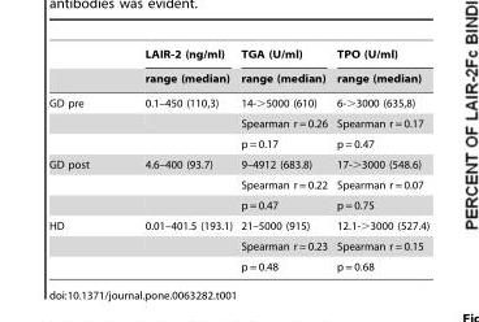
<table><thead><tr><td rowspan="2"></td><td rowspan="2">LAIR-2 (ng/ml) range (median)</td><td rowspan="2">TGA (U/ml) range (median)</td><td rowspan="2">TPO (U/ml) range (median)</td></tr><tr></tr></thead><tbody><tr><td rowspan="3">GD pre</td><td>0.1–450 (110,3)</td><td>14-&gt;5000 (610)</td><td>6-&gt;3000 (635,8)</td></tr><tr><td></td><td>Spearman r = 0.26</td><td>Spearman r = 0.17</td></tr><tr><td></td><td>p = 0.17</td><td>p = 0.47</td></tr><tr><td rowspan="3">GD post</td><td>4.6–400 (93.7)</td><td>9–4912 (683.8)</td><td>17-&gt;3000 (548.6)</td></tr><tr><td></td><td>Spearman r = 0.22</td><td>Spearman r = 0.07</td></tr><tr><td></td><td>p = 0.47</td><td>p = 0.75</td></tr><tr><td rowspan="3">HD</td><td>0.01–401.5 (193.1)</td><td>21–5000 (915)</td><td>12.1-&gt;3000 (527.4)</td></tr><tr><td></td><td>Spearman r = 0.23</td><td>Spearman r = 0.15</td></tr><tr><td></td><td>p = 0.48</td><td>p = 0.68</td></tr></tbody></table>